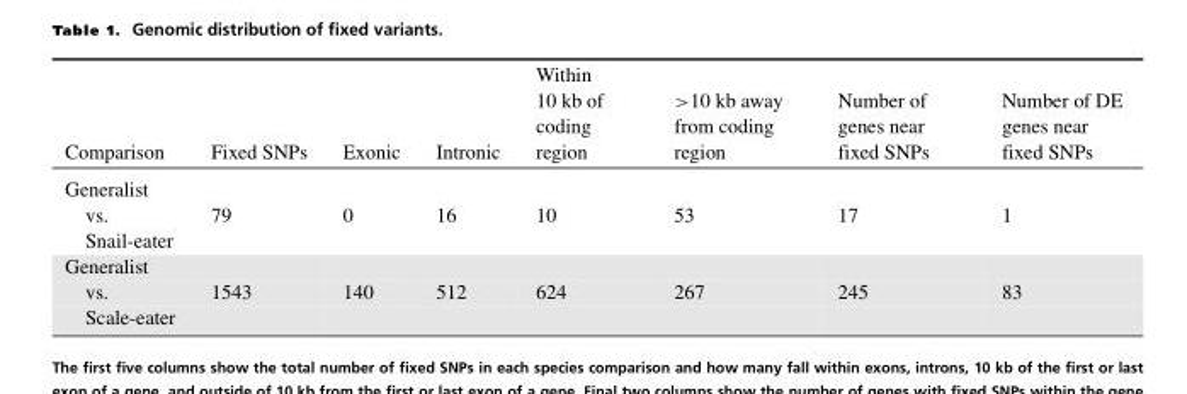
<table><thead><tr><td>Comparison</td><td>Fixed SNPs</td><td>Exonic</td><td>Intronic</td><td>Within 10 kb of coding region</td><td>&gt;10 kb away from coding region</td><td>Number of genes near fixed SNPs</td><td>Number of DE genes near fixed SNPs</td></tr></thead><tbody><tr><td colspan="8">Generalist</td></tr><tr><td>vs.</td><td>79</td><td>0</td><td>16</td><td>10</td><td>53</td><td>17</td><td>1</td></tr><tr><td colspan="8">Snail-eater</td></tr><tr><td colspan="8">Generalist</td></tr><tr><td>vs.</td><td>1543</td><td>140</td><td>512</td><td>624</td><td>267</td><td>245</td><td>83</td></tr><tr><td>Scale-eater</td><td></td><td></td><td></td><td></td><td></td><td></td><td></td></tr></tbody></table>